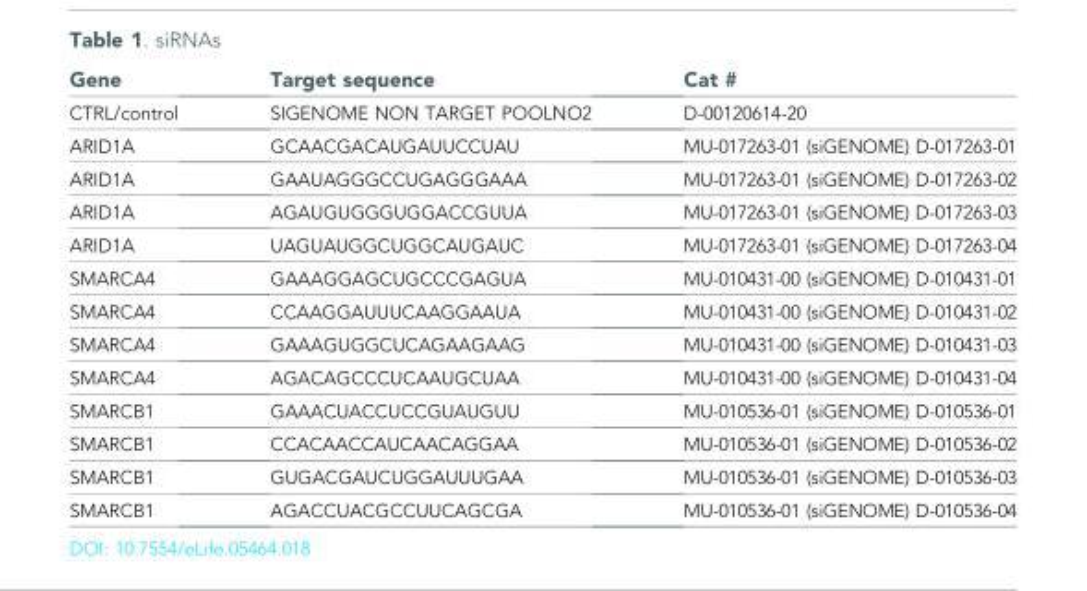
<table><thead><tr><td>Gene</td><td>Target sequence</td><td>Cat #</td></tr></thead><tbody><tr><td>CTRL/control</td><td>SIGENOME NON TARGET POOLNO2</td><td>D-00120614-20</td></tr><tr><td>ARID1A</td><td>GCAACGACAUGAUUCCUAU</td><td>MU-017263-01 (siGENOME) D-017263-01</td></tr><tr><td>ARID1A</td><td>GAAUAGGGCCUGAGGGAAA</td><td>MU-017263-01 (siGENOME) D-017263-02</td></tr><tr><td>ARID1A</td><td>AGAUGUGGGUGGACCGUUA</td><td>MU-017263-01 (siGENOME) D-017263-03</td></tr><tr><td>ARID1A</td><td>UAGUAUGGCUGGCAUGAUC</td><td>MU-017263-01 (siGENOME) D-017263-04</td></tr><tr><td>SMARCA4</td><td>GAAAGGAGCUGCCCGAGUA</td><td>MU-010431-00 (siGENOME) D-010431-01</td></tr><tr><td>SMARCA4</td><td>CCAAGGAUUUCAAGGAAUA</td><td>MU-010431-00 (siGENOME) D-010431-02</td></tr><tr><td>SMARCA4</td><td>GAAAGUGGCUCAGAAGAAG</td><td>MU-010431-00 (siGENOME) D-010431-03</td></tr><tr><td>SMARCA4</td><td>AGACAGCCCUCAAUGCUAA</td><td>MU-010431-00 (siGENOME) D-010431-04</td></tr><tr><td>SMARCB1</td><td>GAAACUACCUCCGUAUGUU</td><td>MU-010536-01 (siGENOME) D-010536-01</td></tr><tr><td>SMARCB1</td><td>CCACAACCAUCAACAGGAA</td><td>MU-010536-01 (siGENOME) D-010536-02</td></tr><tr><td>SMARCB1</td><td>GUGACGAUCUGGAUUUGAA</td><td>MU-010536-01 (siGENOME) D-010536-03</td></tr><tr><td>SMARCB1</td><td>AGACCUACGCCUUCAGCGA</td><td>MU-010536-01 (siGENOME) D-010536-04</td></tr></tbody></table>